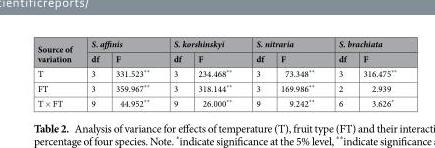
<table><thead><tr><td rowspan="2">Source of variation</td><td colspan="2">S. affinis</td><td colspan="2">S. korshinskyi</td><td colspan="2">S. nitraria</td><td colspan="2">S. brachiata</td></tr><tr><td>df</td><td>F</td><td>df</td><td>F</td><td>df</td><td>F</td><td>df</td><td>F</td></tr></thead><tbody><tr><td>T</td><td>3</td><td>331.523**</td><td>3</td><td>234.468**</td><td>3</td><td>73.348**</td><td>3</td><td>316.475**</td></tr><tr><td>FT</td><td>3</td><td>359.967**</td><td>3</td><td>318.144**</td><td>3</td><td>169.986**</td><td>2</td><td>2.939</td></tr><tr><td>T × FT</td><td>9</td><td>44.952**</td><td>9</td><td>26.000**</td><td>9</td><td>9.242**</td><td>6</td><td>3.626*</td></tr></tbody></table>